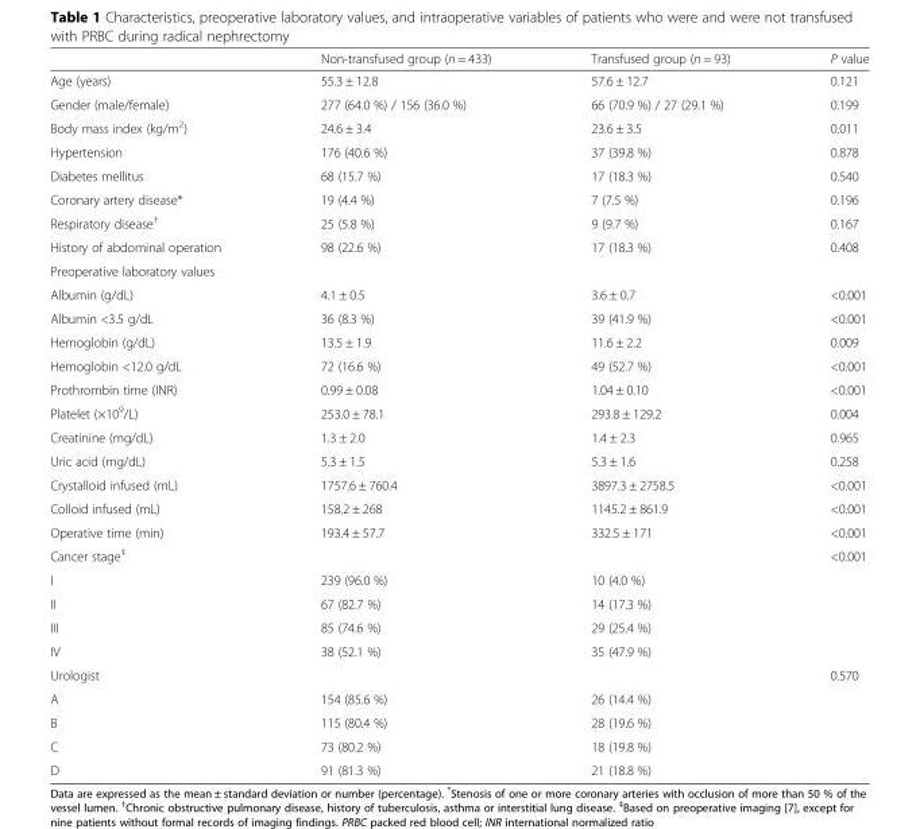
<table><thead><tr><td></td><td>Non-transfused group (n = 433)</td><td>Transfused group (n = 93)</td><td>P value</td></tr></thead><tbody><tr><td>Age (years)</td><td>55.3 ± 12.8</td><td>57.6 ± 12.7</td><td>0.121</td></tr><tr><td>Gender (male/female)</td><td>277 (64.0 %) / 156 (36.0 %)</td><td>66 (70.9 %) / 27 (29.1 %)</td><td>0.199</td></tr><tr><td>Body mass index (kg/m<sup>2</sup>)</td><td>24.6 ± 3.4</td><td>23.6 ± 3.5</td><td>0.011</td></tr><tr><td>Hypertension</td><td>176 (40.6 %)</td><td>37 (39.8 %)</td><td>0.878</td></tr><tr><td>Diabetes mellitus</td><td>68 (15.7 %)</td><td>17 (18.3 %)</td><td>0.540</td></tr><tr><td>Coronary artery disease*</td><td>19 (4.4 %)</td><td>7 (7.5 %)</td><td>0.196</td></tr><tr><td>Respiratory disease<sup>†</sup></td><td>25 (5.8 %)</td><td>9 (9.7 %)</td><td>0.167</td></tr><tr><td>History of abdominal operation</td><td>98 (22.6 %)</td><td>17 (18.3 %)</td><td>0.408</td></tr><tr><td colspan="4">Preoperative laboratory values</td></tr><tr><td>Albumin (g/dL)</td><td>4.1 ± 0.5</td><td>3.6 ± 0.7</td><td>&lt;0.001</td></tr><tr><td>Albumin &lt;3.5 g/dL</td><td>36 (8.3 %)</td><td>39 (41.9 %)</td><td>&lt;0.001</td></tr><tr><td>Hemoglobin (g/dL)</td><td>13.5 ± 1.9</td><td>11.6 ± 2.2</td><td>0.009</td></tr><tr><td>Hemoglobin &lt;12.0 g/dL</td><td>72 (16.6 %)</td><td>49 (52.7 %)</td><td>&lt;0.001</td></tr><tr><td>Prothrombin time (INR)</td><td>0.99 ± 0.08</td><td>1.04 ± 0.10</td><td>&lt;0.001</td></tr><tr><td>Platelet (×10<sup>9</sup>/L)</td><td>253.0 ± 78.1</td><td>293.8 ± 129.2</td><td>0.004</td></tr><tr><td>Creatinine (mg/dL)</td><td>1.3 ± 2.0</td><td>1.4 ± 2.3</td><td>0.965</td></tr><tr><td>Uric acid (mg/dL)</td><td>5.3 ± 1.5</td><td>5.3 ± 1.6</td><td>0.258</td></tr><tr><td>Crystalloid infused (mL)</td><td>1757.6 ± 760.4</td><td>3897.3 ± 2758.5</td><td>&lt;0.001</td></tr><tr><td>Colloid infused (mL)</td><td>158.2 ± 268</td><td>1145.2 ± 861.9</td><td>&lt;0.001</td></tr><tr><td>Operative time (min)</td><td>193.4 ± 57.7</td><td>332.5 ± 171</td><td>&lt;0.001</td></tr><tr><td>Cancer stage<sup>‡</sup></td><td></td><td></td><td>&lt;0.001</td></tr><tr><td>I</td><td>239 (96.0 %)</td><td>10 (4.0 %)</td><td></td></tr><tr><td>II</td><td>67 (82.7 %)</td><td>14 (17.3 %)</td><td></td></tr><tr><td>III</td><td>85 (74.6 %)</td><td>29 (25.4 %)</td><td></td></tr><tr><td>IV</td><td>38 (52.1 %)</td><td>35 (47.9 %)</td><td></td></tr><tr><td>Urologist</td><td></td><td></td><td>0.570</td></tr><tr><td>A</td><td>154 (85.6 %)</td><td>26 (14.4 %)</td><td></td></tr><tr><td>B</td><td>115 (80.4 %)</td><td>28 (19.6 %)</td><td></td></tr><tr><td>C</td><td>73 (80.2 %)</td><td>18 (19.8 %)</td><td></td></tr><tr><td>D</td><td>91 (81.3 %)</td><td>21 (18.8 %)</td><td></td></tr></tbody></table>